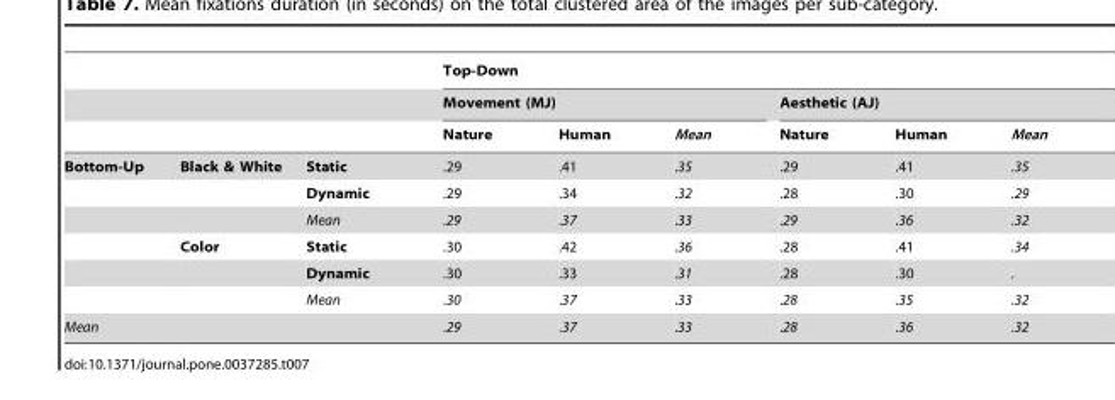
<table><thead><tr><td rowspan="3"></td><td rowspan="3"></td><td rowspan="3"></td><td colspan="6">Top-Down</td></tr><tr><td colspan="3">Movement (MJ)</td><td colspan="3">Aesthetic (AJ)</td></tr><tr><td>Nature</td><td>Human</td><td>Mean</td><td>Nature</td><td>Human</td><td>Mean</td></tr></thead><tbody><tr><td rowspan="6">Bottom-Up</td><td>Black &amp; White</td><td>Static</td><td>.29</td><td>.41</td><td>.35</td><td>.29</td><td>.41</td><td>.35</td></tr><tr><td></td><td>Dynamic</td><td>.29</td><td>.34</td><td>.32</td><td>.28</td><td>.30</td><td>.29</td></tr><tr><td></td><td>Mean</td><td>.29</td><td>.37</td><td>.33</td><td>.29</td><td>.36</td><td>.32</td></tr><tr><td>Color</td><td>Static</td><td>.30</td><td>.42</td><td>.36</td><td>.28</td><td>.41</td><td>.34</td></tr><tr><td></td><td>Dynamic</td><td>.30</td><td>.33</td><td>.31</td><td>.28</td><td>.30</td><td>.</td></tr><tr><td></td><td>Mean</td><td>.30</td><td>.37</td><td>.33</td><td>.28</td><td>.35</td><td>.32</td></tr><tr><td colspan="3">Mean</td><td>.29</td><td>.37</td><td>.33</td><td>.28</td><td>.36</td><td>.32</td></tr></tbody></table>